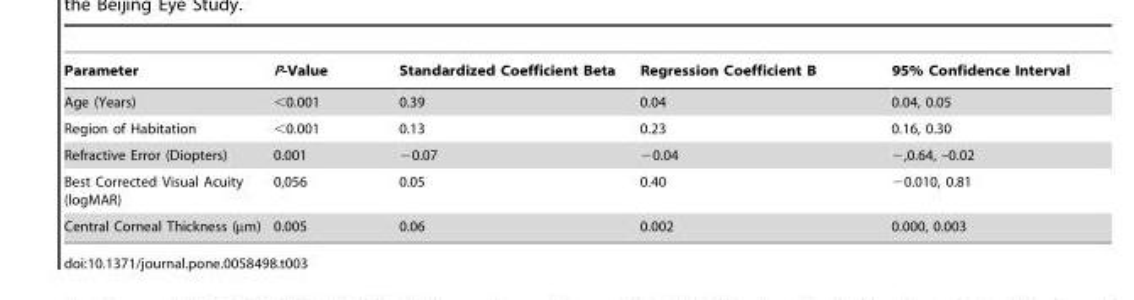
<table><thead><tr><td>Parameter</td><td>P-Value</td><td>Standardized Coefficient Beta</td><td>Regression Coefficient B</td><td>95% Confidence Interval</td></tr></thead><tbody><tr><td>Age (Years)</td><td>&lt;0.001</td><td>0.39</td><td>0.04</td><td>0.04, 0.05</td></tr><tr><td>Region of Habitation</td><td>&lt;0.001</td><td>0.13</td><td>0.23</td><td>0.16, 0.30</td></tr><tr><td>Refractive Error (Diopters)</td><td>0.001</td><td>−0.07</td><td>−0.04</td><td>−,0.64, –0.02</td></tr><tr><td>Best Corrected Visual Acuity (logMAR)</td><td>0,056</td><td>0.05</td><td>0.40</td><td>−0.010, 0.81</td></tr><tr><td>Central Corneal Thickness (µm)</td><td>0.005</td><td>0.06</td><td>0.002</td><td>0.000, 0.003</td></tr></tbody></table>